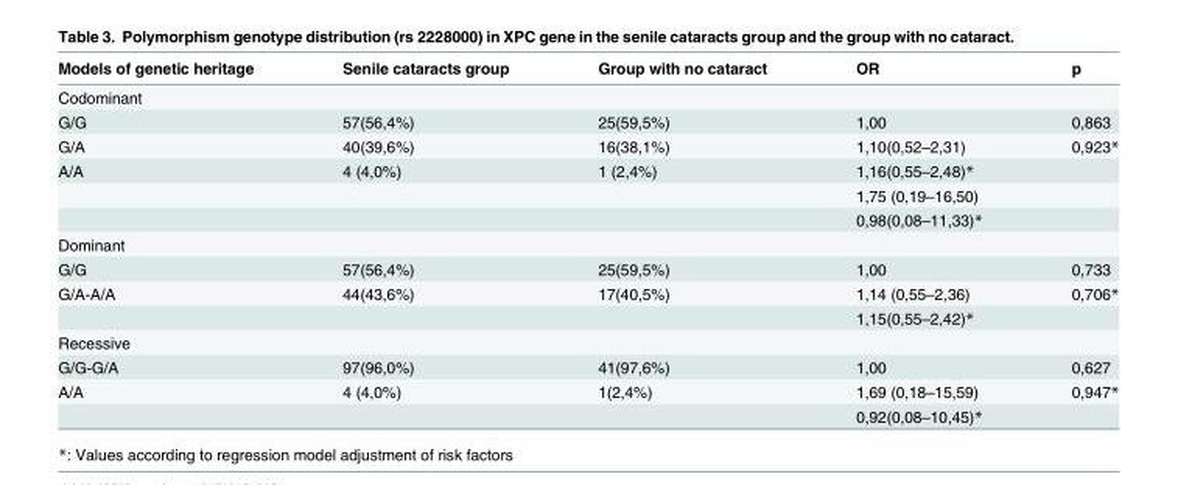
<table><thead><tr><td>Models of genetic heritage</td><td>Senile cataracts group</td><td>Group with no cataract</td><td>OR</td><td>p</td></tr></thead><tbody><tr><td colspan="5">Codominant</td></tr><tr><td>G/G</td><td>57(56,4%)</td><td>25(59,5%)</td><td>1,00</td><td>0,863</td></tr><tr><td>G/A</td><td>40(39,6%)</td><td>16(38,1%)</td><td>1,10(0,52–2,31)</td><td>0,923*</td></tr><tr><td rowspan="3">A/A</td><td>4 (4,0%)</td><td>1 (2,4%)</td><td>1,16(0,55–2,48)*</td><td></td></tr><tr><td></td><td></td><td>1,75 (0,19–16,50)</td><td></td></tr><tr><td></td><td></td><td>0,98(0,08–11,33)*</td><td></td></tr><tr><td colspan="5">Dominant</td></tr><tr><td>G/G</td><td>57(56,4%)</td><td>25(59,5%)</td><td>1,00</td><td>0,733</td></tr><tr><td rowspan="2">G/A-A/A</td><td>44(43,6%)</td><td>17(40,5%)</td><td>1,14 (0,55–2,36)</td><td>0,706*</td></tr><tr><td></td><td></td><td>1,15(0,55–2,42)*</td><td></td></tr><tr><td colspan="5">Recessive</td></tr><tr><td>G/G-G/A</td><td>97(96,0%)</td><td>41(97,6%)</td><td>1,00</td><td>0,627</td></tr><tr><td rowspan="2">A/A</td><td>4 (4,0%)</td><td>1(2,4%)</td><td>1,69 (0,18–15,59)</td><td>0,947*</td></tr><tr><td></td><td></td><td>0,92(0,08–10,45)*</td><td></td></tr></tbody></table>